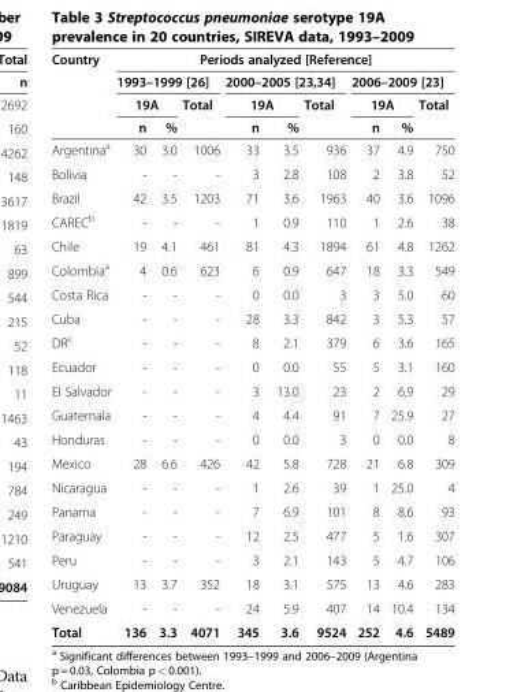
<table><thead><tr><td rowspan="4">Country</td><td colspan="9">Periods analyzed [Reference]</td></tr><tr><td colspan="3">1993–1999 [26]</td><td colspan="3">2000–2005 [23,34]</td><td colspan="3">2006–2009 [23]</td></tr><tr><td colspan="2">19A</td><td rowspan="2">Total</td><td colspan="2">19A</td><td rowspan="2">Total</td><td colspan="2">19A</td><td rowspan="2">Total</td></tr><tr><td>n</td><td>%</td><td>n</td><td>%</td><td>n</td><td>%</td></tr></thead><tbody><tr><td>Argentina<sup>a</sup></td><td>30</td><td>3.0</td><td>1006</td><td>33</td><td>3.5</td><td>936</td><td>37</td><td>4.9</td><td>750</td></tr><tr><td>Bolivia</td><td>-</td><td>-</td><td>-</td><td>3</td><td>2.8</td><td>108</td><td>2</td><td>3.8</td><td>52</td></tr><tr><td>Brazil</td><td>42</td><td>3.5</td><td>1203</td><td>71</td><td>3.6</td><td>1963</td><td>40</td><td>3.6</td><td>1096</td></tr><tr><td>CAREC<sup>b</sup></td><td>-</td><td>-</td><td>-</td><td>1</td><td>0.9</td><td>110</td><td>1</td><td>2.6</td><td>38</td></tr><tr><td>Chile</td><td>19</td><td>4.1</td><td>461</td><td>81</td><td>4.3</td><td>1894</td><td>61</td><td>4.8</td><td>1262</td></tr><tr><td>Colombia<sup>a</sup></td><td>4</td><td>0.6</td><td>623</td><td>6</td><td>0.9</td><td>647</td><td>18</td><td>3.3</td><td>549</td></tr><tr><td>Costa Rica</td><td>-</td><td>-</td><td>-</td><td>0</td><td>0.0</td><td>3</td><td>3</td><td>5.0</td><td>60</td></tr><tr><td>Cuba</td><td>-</td><td>-</td><td>-</td><td>28</td><td>3.3</td><td>842</td><td>3</td><td>5.3</td><td>57</td></tr><tr><td>DR<sup>c</sup></td><td>-</td><td>-</td><td>-</td><td>8</td><td>2.1</td><td>379</td><td>6</td><td>3.6</td><td>165</td></tr><tr><td>Ecuador</td><td>-</td><td>-</td><td>-</td><td>0</td><td>0.0</td><td>55</td><td>5</td><td>3.1</td><td>160</td></tr><tr><td>El Salvador</td><td>-</td><td>-</td><td>-</td><td>3</td><td>13.0</td><td>23</td><td>2</td><td>6.9</td><td>29</td></tr><tr><td>Guatemala</td><td>-</td><td>-</td><td>-</td><td>4</td><td>4.4</td><td>91</td><td>7</td><td>25.9</td><td>27</td></tr><tr><td>Honduras</td><td>-</td><td>-</td><td>-</td><td>0</td><td>0.0</td><td>3</td><td>0</td><td>0.0</td><td>8</td></tr><tr><td>Mexico</td><td>28</td><td>6.6</td><td>426</td><td>42</td><td>5.8</td><td>728</td><td>21</td><td>6.8</td><td>309</td></tr><tr><td>Nicaragua</td><td>-</td><td>-</td><td>-</td><td>1</td><td>2.6</td><td>39</td><td>1</td><td>25.0</td><td>4</td></tr><tr><td>Panama</td><td>-</td><td>-</td><td>-</td><td>7</td><td>6.9</td><td>101</td><td>8</td><td>8.6</td><td>93</td></tr><tr><td>Paraguay</td><td>-</td><td>-</td><td>-</td><td>12</td><td>2.5</td><td>477</td><td>5</td><td>1.6</td><td>307</td></tr><tr><td>Peru</td><td>-</td><td>-</td><td>-</td><td>3</td><td>2.1</td><td>143</td><td>5</td><td>4.7</td><td>106</td></tr><tr><td>Uruguay</td><td>13</td><td>3.7</td><td>352</td><td>18</td><td>3.1</td><td>575</td><td>13</td><td>4.6</td><td>283</td></tr><tr><td>Venezuela</td><td>-</td><td>-</td><td>-</td><td>24</td><td>5.9</td><td>407</td><td>14</td><td>10.4</td><td>134</td></tr><tr><td>Total</td><td>136</td><td>3.3</td><td>4071</td><td>345</td><td>3.6</td><td>9524</td><td>252</td><td>4.6</td><td>5489</td></tr></tbody></table>